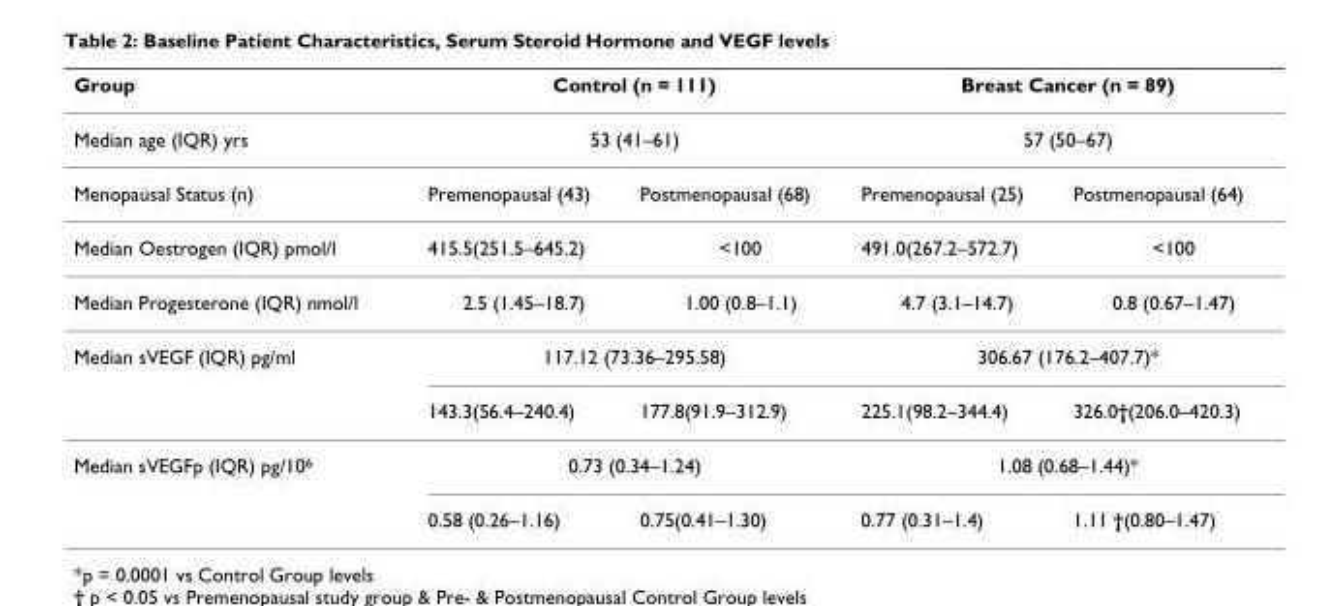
<table><thead><tr><td rowspan="3">Group Median age (IQR) yrs Menopausal Status (n)</td><td rowspan="2" colspan="2">Control (n = 111) 53 (41–61)</td><td rowspan="2" colspan="2">Breast Cancer (n = 89) 57 (50–67)</td></tr><tr></tr><tr><td>Premenopausal (43)</td><td>Postmenopausal (68)</td><td>Premenopausal (25)</td><td>Postmenopausal (64)</td></tr></thead><tbody><tr><td>Median Oestrogen (IQR) pmol/l</td><td>415.5(251.5–645.2)</td><td>&lt;100</td><td>491.0(267.2–572.7)</td><td>&lt;100</td></tr><tr><td>Median Progesterone (IQR) nmol/l</td><td>2.5 (1.45–18.7)</td><td>1.00 (0.8–1.1)</td><td>4.7 (3.1–14.7)</td><td>0.8 (0.67–1.47)</td></tr><tr><td rowspan="2">Median sVEGF (IQR) pg/ml</td><td colspan="2">117.12 (73.36–295.58)</td><td colspan="2">306.67 (176.2–407.7)*</td></tr><tr><td>143.3(56.4–240.4)</td><td>177.8(91.9–312.9)</td><td>225.1(98.2–344.4)</td><td>326.0†(206.0–420.3)</td></tr><tr><td rowspan="2">Median sVEGFp (IQR) pg/10<sup>6</sup></td><td colspan="2">0.73 (0.34–1.24)</td><td colspan="2">1.08 (0.68–1.44)*</td></tr><tr><td>0.58 (0.26–1.16)</td><td>0.75(0.41–1.30)</td><td>0.77 (0.31–1.4)</td><td>1.11 †(0.80–1.47)</td></tr></tbody></table>